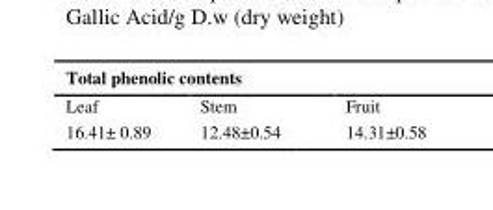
<table><thead><tr><td colspan="3">Total phenolic contents</td></tr><tr><td>Leaf</td><td>Stem</td><td>Fruit</td></tr></thead><tbody><tr><td>16.41± 0.89</td><td>12.48±0.54</td><td>14.31±0.58</td></tr></tbody></table>